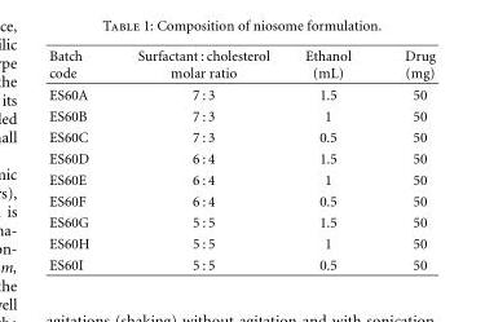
<table><thead><tr><td>Batch code</td><td>Surfactant : cholesterol molar ratio</td><td>Ethanol (mL)</td><td>Drug (mg)</td></tr></thead><tbody><tr><td>ES60A</td><td>7 : 3</td><td>1.5</td><td>50</td></tr><tr><td>ES60B</td><td>7 : 3</td><td>1</td><td>50</td></tr><tr><td>ES60C</td><td>7 : 3</td><td>0.5</td><td>50</td></tr><tr><td>ES60D</td><td>6 : 4</td><td>1.5</td><td>50</td></tr><tr><td>ES60E</td><td>6 : 4</td><td>1</td><td>50</td></tr><tr><td>ES60F</td><td>6 : 4</td><td>0.5</td><td>50</td></tr><tr><td>ES60G</td><td>5 : 5</td><td>1.5</td><td>50</td></tr><tr><td>ES60H</td><td>5 : 5</td><td>1</td><td>50</td></tr><tr><td>ES60I</td><td>5 : 5</td><td>0.5</td><td>50</td></tr></tbody></table>